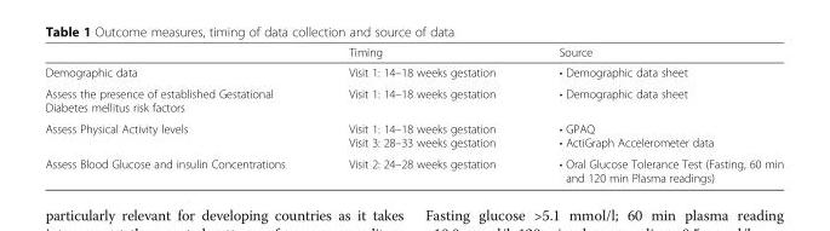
<table><thead><tr><td></td><td>Timing</td><td>Source</td></tr></thead><tbody><tr><td>Demographic data</td><td>Visit 1: 14–18 weeks gestation</td><td>• Demographic data sheet</td></tr><tr><td>Assess the presence of established Gestational Diabetes mellitus risk factors</td><td>Visit 1: 14–18 weeks gestation</td><td>• Demographic data sheet</td></tr><tr><td>Assess Physical Activity levels</td><td>Visit 1: 14–18 weeks gestation Visit 3: 28–33 weeks gestation</td><td>• GPAQ • ActiGraph Accelerometer data</td></tr><tr><td>Assess Blood Glucose and insulin Concentrations</td><td>Visit 2: 24–28 weeks gestation</td><td>• Oral Glucose Tolerance Test (Fasting, 60 min and 120 min Plasma readings)</td></tr></tbody></table>